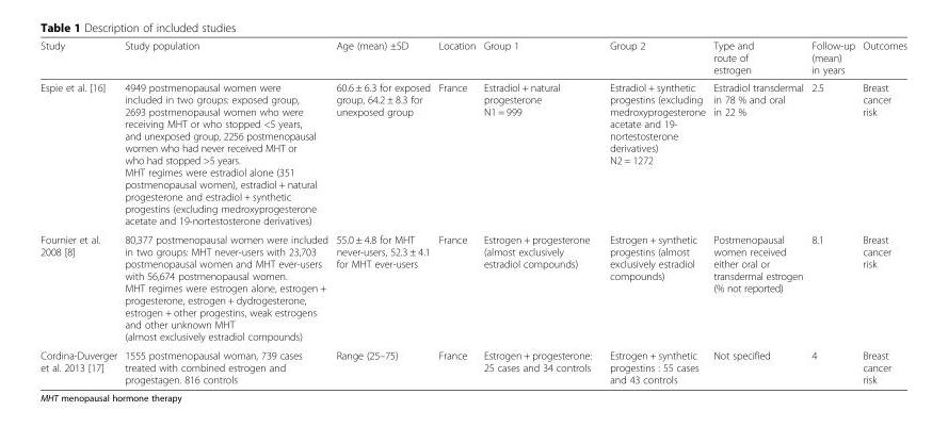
<table><thead><tr><td>Study</td><td>Study population</td><td>Age (mean) ±SD</td><td>Location</td><td>Group 1</td><td>Group 2</td><td>Type and route of estrogen</td><td>Follow-up (mean) in years</td><td>Outcomes</td></tr></thead><tbody><tr><td>Espie et al. [16]</td><td>4949 postmenopausal women were included in two groups: exposed group, 2693 postmenopausal women who were receiving MHT or who stopped &lt;5 years, and unexposed group, 2256 postmenopausal women who had never received MHT or who had stopped &gt;5 years. MHT regimes were estradiol alone (351 postmenopausal women), estradiol + natural progesterone and estradiol + synthetic progestins (excluding medroxyprogesterone acetate and 19-nortestosterone derivatives)</td><td>60.6 ± 6.3 for exposed group, 64.2 ± 8.3 for unexposed group</td><td>France</td><td>Estradiol + natural progesterone N1 = 999</td><td>Estradiol + synthetic progestins (excluding medroxyprogesterone acetate and 19- nortestosterone derivatives) N2 = 1272</td><td>Estradiol transdermal in 78 % and oral in 22 %</td><td>2.5</td><td>Breast cancer risk</td></tr><tr><td>Fournier et al. 2008 [8]</td><td>80,377 postmenopausal women were included in two groups: MHT never-users with 23,703 postmenopausal women and MHT ever-users with 56,674 postmenopausal women. MHT regimes were estrogen alone, estrogen + progesterone, estrogen + dydrogesterone, estrogen + other progestins, weak estrogens and other unknown MHT (almost exclusively estradiol compounds)</td><td>55.0 ± 4.8 for MHT never-users, 52.3 ± 4.1 for MHT ever-users</td><td>France</td><td>Estrogen + progesterone (almost exclusively estradiol compounds)</td><td>Estrogen + synthetic progestins (almost exclusively estradiol compounds)</td><td>Postmenopausal women received either oral or transdermal estrogen (% not reported)</td><td>8.1</td><td>Breast cancer risk</td></tr><tr><td>Cordina-Duverger et al. 2013 [17]</td><td>1555 postmenopausal woman, 739 cases treated with combined estrogen and progestagen. 816 controls</td><td>Range (25–75)</td><td>France</td><td>Estrogen + progesterone: 25 cases and 34 controls</td><td>Estrogen + synthetic progestins : 55 cases and 43 controls</td><td>Not specified</td><td>4</td><td>Breast cancer risk</td></tr></tbody></table>